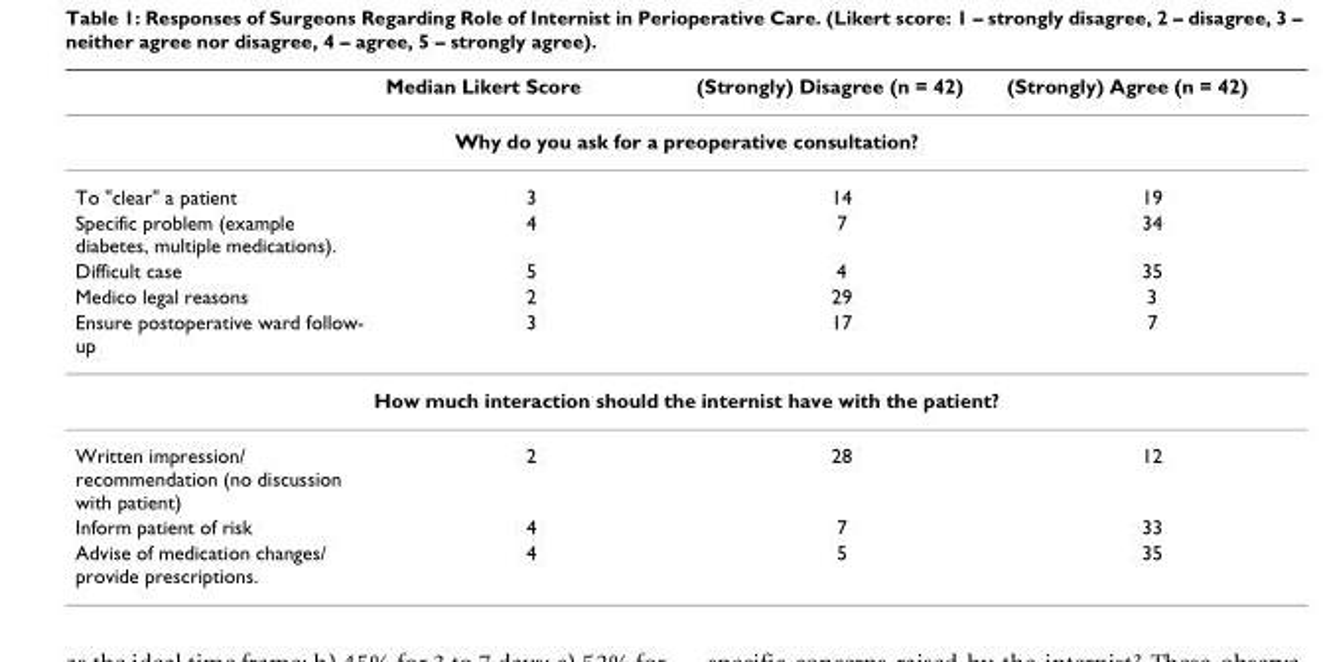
<table><thead><tr><td></td><td>Median Likert Score</td><td>(Strongly) Disagree (n = 42)</td><td>(Strongly) Agree (n = 42)</td></tr></thead><tbody><tr><td colspan="4">Why do you ask for a preoperative consultation?</td></tr><tr><td>To &quot;clear&quot; a patient</td><td>3</td><td>14</td><td>19</td></tr><tr><td>Specific problem (example diabetes, multiple medications).</td><td>4</td><td>7</td><td>34</td></tr><tr><td>Difficult case</td><td>5</td><td>4</td><td>35</td></tr><tr><td>Medico legal reasons</td><td>2</td><td>29</td><td>3</td></tr><tr><td>Ensure postoperative ward follow- up</td><td>3</td><td>17</td><td>7</td></tr><tr><td colspan="4">How much interaction should the internist have with the patient?</td></tr><tr><td>Written impression/ recommendation (no discussion with patient)</td><td>2</td><td>28</td><td>12</td></tr><tr><td>Inform patient of risk</td><td>4</td><td>7</td><td>33</td></tr><tr><td>Advise of medication changes/ provide prescriptions.</td><td>4</td><td>5</td><td>35</td></tr></tbody></table>